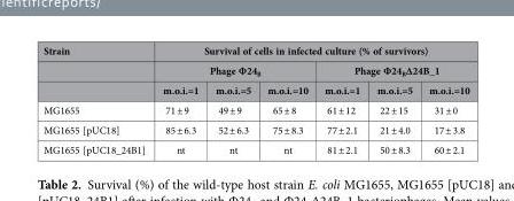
<table><thead><tr><td rowspan="3">Strain</td><td colspan="6">Survival of cells in infected culture (% of survivors)</td></tr><tr><td colspan="3">Phage Φ24<sub>B</sub></td><td colspan="3">Phage Φ24<sub>B</sub>∆24B_1</td></tr><tr><td>m.o.i.=1</td><td>m.o.i.=5</td><td>m.o.i.=10</td><td>m.o.i.=1</td><td>m.o.i.=5</td><td>m.o.i.=10</td></tr></thead><tbody><tr><td>MG1655</td><td>71 ± 9</td><td>49 ± 9</td><td>65 ± 8</td><td>61 ± 12</td><td>22 ± 15</td><td>31 ± 0</td></tr><tr><td>MG1655 [pUC18]</td><td>85 ± 6.3</td><td>52 ± 6.3</td><td>75 ± 8.3</td><td>77 ± 2.1</td><td>21 ± 4.0</td><td>17 ± 3.8</td></tr><tr><td>MG1655 [pUC18_24B1]</td><td>nt</td><td>nt</td><td>nt</td><td>81 ± 2.1</td><td>50 ± 8.3</td><td>60 ± 2.1</td></tr></tbody></table>